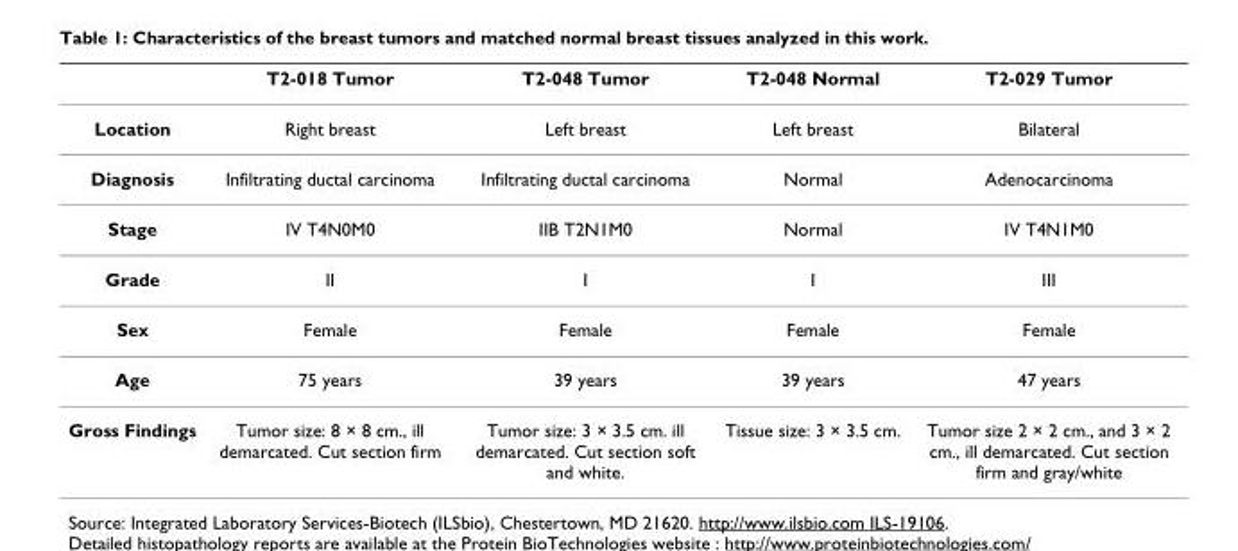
<table><thead><tr><td></td><td>T2-018 Tumor</td><td>T2-048 Tumor</td><td>T2-048 Normal</td><td>T2-029 Tumor</td></tr></thead><tbody><tr><td>Location</td><td>Right breast</td><td>Left breast</td><td>Left breast</td><td>Bilateral</td></tr><tr><td>Diagnosis</td><td>Infiltrating ductal carcinoma</td><td>Infiltrating ductal carcinoma</td><td>Normal</td><td>Adenocarcinoma</td></tr><tr><td>Stage</td><td>IV T4N0M0</td><td>IIB T2N1M0</td><td>Normal</td><td>IV T4N1M0</td></tr><tr><td>Grade</td><td>II</td><td>I</td><td>I</td><td>III</td></tr><tr><td>Sex</td><td>Female</td><td>Female</td><td>Female</td><td>Female</td></tr><tr><td>Age</td><td>75 years</td><td>39 years</td><td>39 years</td><td>47 years</td></tr><tr><td>Gross Findings</td><td>Tumor size: 8 × 8 cm., ill demarcated. Cut section firm</td><td>Tumor size: 3 × 3.5 cm. ill demarcated. Cut section soft and white.</td><td>Tissue size: 3 × 3.5 cm.</td><td>Tumor size 2 × 2 cm., and 3 × 2 cm., ill demarcated. Cut section firm and gray/white</td></tr></tbody></table>